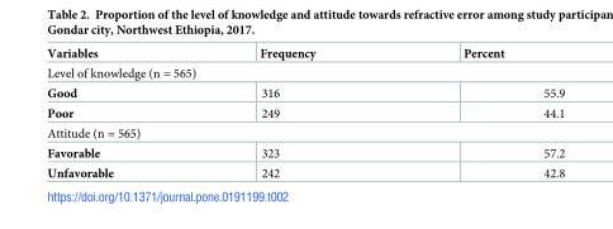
<table><thead><tr><td>Variables</td><td>Frequency</td><td>Percent</td></tr></thead><tbody><tr><td colspan="3">Level of knowledge (n = 565)</td></tr><tr><td>Good</td><td>316</td><td>55.9</td></tr><tr><td>Poor</td><td>249</td><td>44.1</td></tr><tr><td colspan="3">Attitude (n = 565)</td></tr><tr><td>Favorable</td><td>323</td><td>57.2</td></tr><tr><td>Unfavorable</td><td>242</td><td>42.8</td></tr></tbody></table>